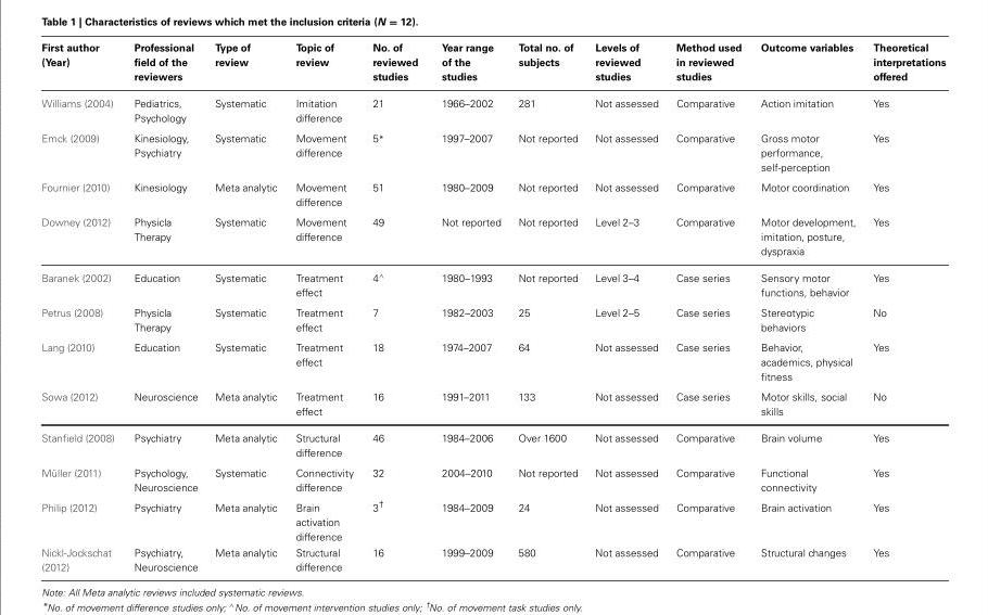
<table><thead><tr><td>First author (Year)</td><td>Professional field of the reviewers</td><td>Type of review</td><td>Topic of review</td><td>No. of reviewed studies</td><td>Year range of the studies</td><td>Total no. of subjects</td><td>Levels of reviewed studies</td><td>Method used in reviewed studies</td><td>Outcome variables</td><td>Theoretical interpretations offered</td></tr></thead><tbody><tr><td>Williams (2004)</td><td>Pediatrics, Psychology</td><td>Systematic</td><td>Imitation difference</td><td>21</td><td>1966–2002</td><td>281</td><td>Not assessed</td><td>Comparative</td><td>Action imitation</td><td>Yes</td></tr><tr><td>Emck (2009)</td><td>Kinesiology, Psychiatry</td><td>Systematic</td><td>Movement difference</td><td>5*</td><td>1997–2007</td><td>Not reported</td><td>Not assessed</td><td>Comparative</td><td>Gross motor performance, self-perception</td><td>Yes</td></tr><tr><td>Fournier (2010)</td><td>Kinesiology</td><td>Meta analytic</td><td>Movement difference</td><td>51</td><td>1980–2009</td><td>Not reported</td><td>Not assessed</td><td>Comparative</td><td>Motor coordination</td><td>Yes</td></tr><tr><td>Downey (2012)</td><td>Physicla Therapy</td><td>Systematic</td><td>Movement difference</td><td>49</td><td>Not reported</td><td>Not reported</td><td>Level 2–3</td><td>Comparative</td><td>Motor development, imitation, posture, dyspraxia</td><td>Yes</td></tr><tr><td>Baranek (2002)</td><td>Education</td><td>Systematic</td><td>Treatment effect</td><td>4<sup>∧</sup></td><td>1980–1993</td><td>Not reported</td><td>Level 3–4</td><td>Case series</td><td>Sensory motor functions, behavior</td><td>Yes</td></tr><tr><td>Petrus (2008)</td><td>Physicla Therapy</td><td>Systematic</td><td>Treatment effect</td><td>7</td><td>1982–2003</td><td>25</td><td>Level 2–5</td><td>Case series</td><td>Stereotypic behaviors</td><td>No</td></tr><tr><td>Lang (2010)</td><td>Education</td><td>Systematic</td><td>Treatment effect</td><td>18</td><td>1974–2007</td><td>64</td><td>Not assessed</td><td>Case series</td><td>Behavior, academics, physical fitness</td><td>Yes</td></tr><tr><td>Sowa (2012)</td><td>Neuroscience</td><td>Meta analytic</td><td>Treatment effect</td><td>16</td><td>1991–2011</td><td>133</td><td>Not assessed</td><td>Case series</td><td>Motor skills, social skills</td><td>No</td></tr><tr><td>Stanfield (2008)</td><td>Psychiatry</td><td>Meta analytic</td><td>Structural difference</td><td>46</td><td>1984–2006</td><td>Over 1600</td><td>Not assessed</td><td>Comparative</td><td>Brain volume</td><td>Yes</td></tr><tr><td>Müller (2011)</td><td>Psychology, Neuroscience</td><td>Systematic</td><td>Connectivity difference</td><td>32</td><td>2004–2010</td><td>Not reported</td><td>Not assessed</td><td>Comparative</td><td>Functional connectivity</td><td>Yes</td></tr><tr><td>Philip (2012)</td><td>Psychiatry</td><td>Meta analytic</td><td>Brain activation difference</td><td>3<sup>†</sup></td><td>1984–2009</td><td>24</td><td>Not assessed</td><td>Comparative</td><td>Brain activation</td><td>Yes</td></tr><tr><td>Nickl-Jockschat (2012)</td><td>Psychiatry, Neuroscience</td><td>Meta analytic</td><td>Structural difference</td><td>16</td><td>1999–2009</td><td>580</td><td>Not assessed</td><td>Comparative</td><td>Structural changes</td><td>Yes</td></tr></tbody></table>